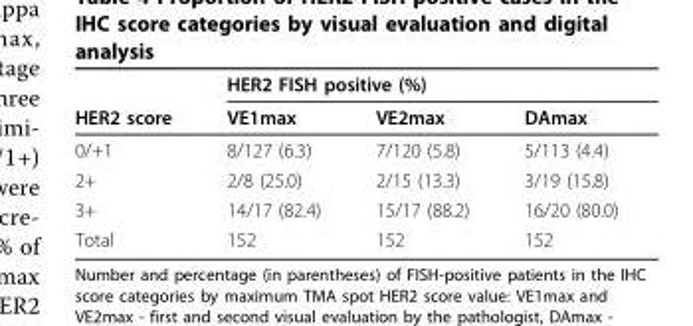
<table><thead><tr><td rowspan="2">HER2 score</td><td colspan="3">HER2 FISH positive (%)</td></tr><tr><td>VE1max</td><td>VE2max</td><td>DAmax</td></tr></thead><tbody><tr><td>0/+1</td><td>8/127 (6.3)</td><td>7/120 (5.8)</td><td>5/113 (4.4)</td></tr><tr><td>2+</td><td>2/8 (25.0)</td><td>2/15 (13.3)</td><td>3/19 (15.8)</td></tr><tr><td>3+</td><td>14/17 (82.4)</td><td>15/17 (88.2)</td><td>16/20 (80.0)</td></tr><tr><td>Total</td><td>152</td><td>152</td><td>152</td></tr></tbody></table>